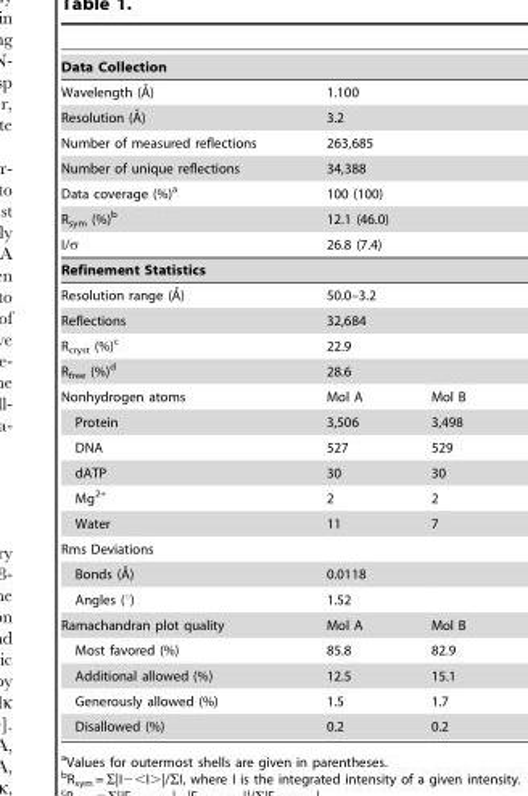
<table><tbody><tr><td colspan="3">Data Collection</td></tr><tr><td>Wavelength (A˚)</td><td>1.100</td><td></td></tr><tr><td>Resolution (A˚)</td><td>3.2</td><td></td></tr><tr><td>Number of measured reflections</td><td>263,685</td><td></td></tr><tr><td>Number of unique reflections</td><td>34,388</td><td></td></tr><tr><td>Data coverage (%)<sup>a</sup></td><td>100 (100)</td><td></td></tr><tr><td>R<sub>sym</sub> (%)<sup>b</sup></td><td>12.1 (46.0)</td><td></td></tr><tr><td>I/σ</td><td>26.8 (7.4)</td><td></td></tr><tr><td colspan="3">Refinement Statistics</td></tr><tr><td>Resolution range (A˚)</td><td>50.0–3.2</td><td></td></tr><tr><td>Reflections</td><td>32,684</td><td></td></tr><tr><td>R<sub>cryst</sub> (%)<sup>c</sup></td><td>22.9</td><td></td></tr><tr><td>R<sub>free</sub> (%)<sup>d</sup></td><td>28.6</td><td></td></tr><tr><td>Nonhydrogen atoms</td><td>Mol A</td><td>Mol B</td></tr><tr><td>Protein</td><td>3,506</td><td>3,498</td></tr><tr><td>DNA</td><td>527</td><td>529</td></tr><tr><td>dATP</td><td>30</td><td>30</td></tr><tr><td>Mg<sup>2+</sup></td><td>2</td><td>2</td></tr><tr><td>Water</td><td>11</td><td>7</td></tr><tr><td colspan="3">Rms Deviations</td></tr><tr><td>Bonds (A˚)</td><td>0.0118</td><td></td></tr><tr><td>Angles (°)</td><td>1.52</td><td></td></tr><tr><td>Ramachandran plot quality</td><td>Mol A</td><td>Mol B</td></tr><tr><td>Most favored (%)</td><td>85.8</td><td>82.9</td></tr><tr><td>Additional allowed (%)</td><td>12.5</td><td>15.1</td></tr><tr><td>Generously allowed (%)</td><td>1.5</td><td>1.7</td></tr><tr><td>Disallowed (%)</td><td>0.2</td><td>0.2</td></tr></tbody></table>